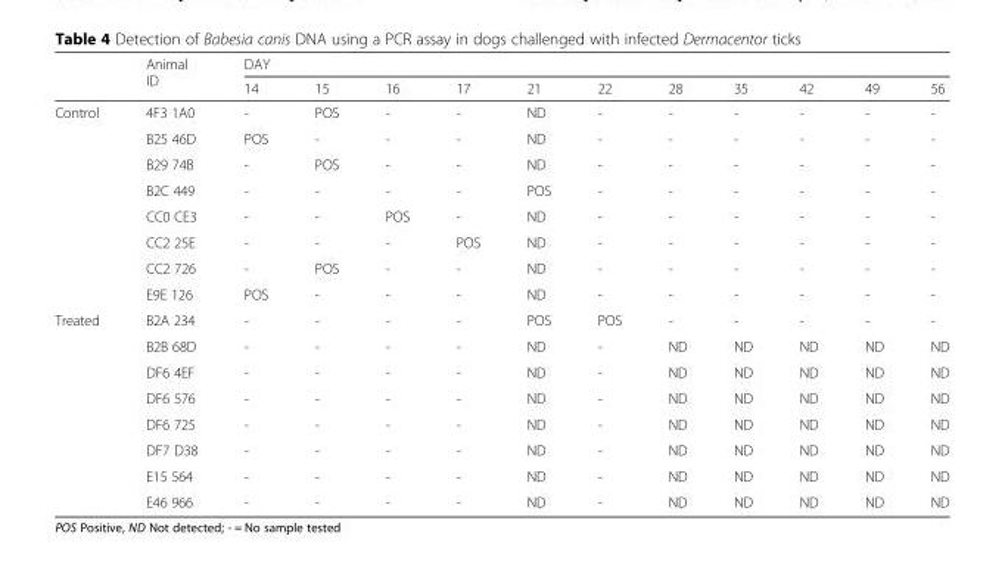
<table><thead><tr><td rowspan="2"></td><td rowspan="2">Animal ID</td><td colspan="11">DAY</td></tr><tr><td>14</td><td>15</td><td>16</td><td>17</td><td>21</td><td>22</td><td>28</td><td>35</td><td>42</td><td>49</td><td>56</td></tr></thead><tbody><tr><td rowspan="8">Control</td><td>4F3 1A0</td><td>-</td><td>POS</td><td>-</td><td>-</td><td>ND</td><td>-</td><td>-</td><td>-</td><td>-</td><td>-</td><td>-</td></tr><tr><td>B25 46D</td><td>POS</td><td>-</td><td>-</td><td>-</td><td>ND</td><td>-</td><td>-</td><td>-</td><td>-</td><td>-</td><td>-</td></tr><tr><td>B29 74B</td><td>-</td><td>POS</td><td>-</td><td>-</td><td>ND</td><td>-</td><td>-</td><td>-</td><td>-</td><td>-</td><td>-</td></tr><tr><td>B2C 449</td><td>-</td><td>-</td><td>-</td><td>-</td><td>POS</td><td>-</td><td>-</td><td>-</td><td>-</td><td>-</td><td>-</td></tr><tr><td>CC0 CE3</td><td>-</td><td>-</td><td>POS</td><td>-</td><td>ND</td><td>-</td><td>-</td><td>-</td><td>-</td><td>-</td><td>-</td></tr><tr><td>CC2 25E</td><td>-</td><td>-</td><td>-</td><td>POS</td><td>ND</td><td>-</td><td>-</td><td>-</td><td>-</td><td>-</td><td>-</td></tr><tr><td>CC2 726</td><td>-</td><td>POS</td><td>-</td><td>-</td><td>ND</td><td>-</td><td>-</td><td>-</td><td>-</td><td>-</td><td>-</td></tr><tr><td>E9E 126</td><td>POS</td><td>-</td><td>-</td><td>-</td><td>ND</td><td>-</td><td>-</td><td>-</td><td>-</td><td>-</td><td>-</td></tr><tr><td rowspan="8">Treated</td><td>B2A 234</td><td>-</td><td>-</td><td>-</td><td>-</td><td>POS</td><td>POS</td><td>-</td><td>-</td><td>-</td><td>-</td><td>-</td></tr><tr><td>B2B 68D</td><td>-</td><td>-</td><td>-</td><td>-</td><td>ND</td><td>-</td><td>ND</td><td>ND</td><td>ND</td><td>ND</td><td>ND</td></tr><tr><td>DF6 4EF</td><td>-</td><td>-</td><td>-</td><td>-</td><td>ND</td><td>-</td><td>ND</td><td>ND</td><td>ND</td><td>ND</td><td>ND</td></tr><tr><td>DF6 576</td><td>-</td><td>-</td><td>-</td><td>-</td><td>ND</td><td>-</td><td>ND</td><td>ND</td><td>ND</td><td>ND</td><td>ND</td></tr><tr><td>DF6 725</td><td>-</td><td>-</td><td>-</td><td>-</td><td>ND</td><td>-</td><td>ND</td><td>ND</td><td>ND</td><td>ND</td><td>ND</td></tr><tr><td>DF7 D38</td><td>-</td><td>-</td><td>-</td><td>-</td><td>ND</td><td>-</td><td>ND</td><td>ND</td><td>ND</td><td>ND</td><td>ND</td></tr><tr><td>E15 564</td><td>-</td><td>-</td><td>-</td><td>-</td><td>ND</td><td>-</td><td>ND</td><td>ND</td><td>ND</td><td>ND</td><td>ND</td></tr><tr><td>E46 966</td><td>-</td><td>-</td><td>-</td><td>-</td><td>ND</td><td>-</td><td>ND</td><td>ND</td><td>ND</td><td>ND</td><td>ND</td></tr></tbody></table>